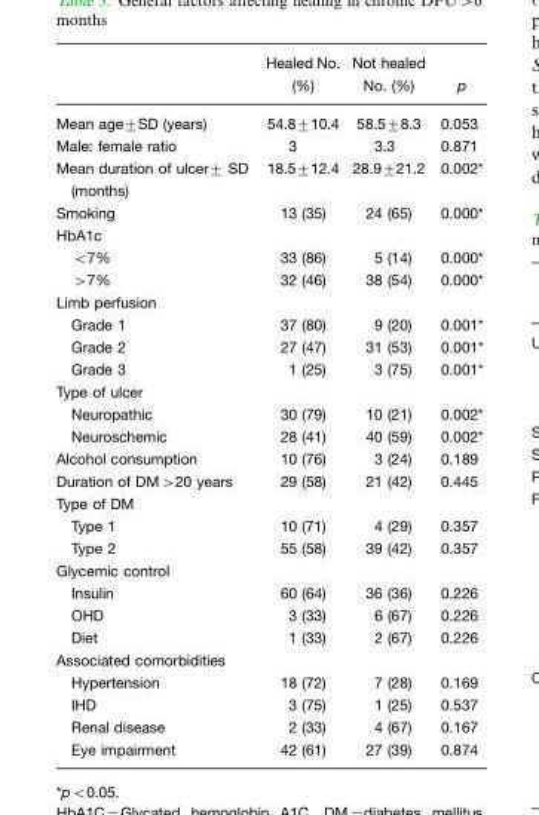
<table><thead><tr><td></td><td>Healed No. (%)</td><td>Not healed No. (%)</td><td>p</td></tr></thead><tbody><tr><td>Mean age±SD (years)</td><td>54.8±10.4</td><td>58.5±8.3</td><td>0.053</td></tr><tr><td>Male: female ratio</td><td>3</td><td>3.3</td><td>0.871</td></tr><tr><td>Mean duration of ulcer± SD (months)</td><td>18.5±12.4</td><td>28.9±21.2</td><td>0.002*</td></tr><tr><td>Smoking</td><td>13 (35)</td><td>24 (65)</td><td>0.000*</td></tr><tr><td colspan="4">HbA1c</td></tr><tr><td>&lt;7%</td><td>33 (86)</td><td>5 (14)</td><td>0.000*</td></tr><tr><td>&gt;7%</td><td>32 (46)</td><td>38 (54)</td><td>0.000*</td></tr><tr><td colspan="4">Limb perfusion</td></tr><tr><td>Grade 1</td><td>37 (80)</td><td>9 (20)</td><td>0.001*</td></tr><tr><td>Grade 2</td><td>27 (47)</td><td>31 (53)</td><td>0.001*</td></tr><tr><td>Grade 3</td><td>1 (25)</td><td>3 (75)</td><td>0.001*</td></tr><tr><td colspan="4">Type of ulcer</td></tr><tr><td>Neuropathic</td><td>30 (79)</td><td>10 (21)</td><td>0.002*</td></tr><tr><td>Neuroschemic</td><td>28 (41)</td><td>40 (59)</td><td>0.002*</td></tr><tr><td>Alcohol consumption</td><td>10 (76)</td><td>3 (24)</td><td>0.189</td></tr><tr><td>Duration of DM&gt;20 years</td><td>29 (58)</td><td>21 (42)</td><td>0.445</td></tr><tr><td colspan="4">Type of DM</td></tr><tr><td>Type 1</td><td>10 (71)</td><td>4 (29)</td><td>0.357</td></tr><tr><td>Type 2</td><td>55 (58)</td><td>39 (42)</td><td>0.357</td></tr><tr><td colspan="4">Glycemic control</td></tr><tr><td>Insulin</td><td>60 (64)</td><td>36 (36)</td><td>0.226</td></tr><tr><td>OHD</td><td>3 (33)</td><td>6 (67)</td><td>0.226</td></tr><tr><td>Diet</td><td>1 (33)</td><td>2 (67)</td><td>0.226</td></tr><tr><td colspan="4">Associated comorbidities</td></tr><tr><td>Hypertension</td><td>18 (72)</td><td>7 (28)</td><td>0.169</td></tr><tr><td>IHD</td><td>3 (75)</td><td>1 (25)</td><td>0.537</td></tr><tr><td>Renal disease</td><td>2 (33)</td><td>4 (67)</td><td>0.167</td></tr><tr><td>Eye impairment</td><td>42 (61)</td><td>27 (39)</td><td>0.874</td></tr></tbody></table>